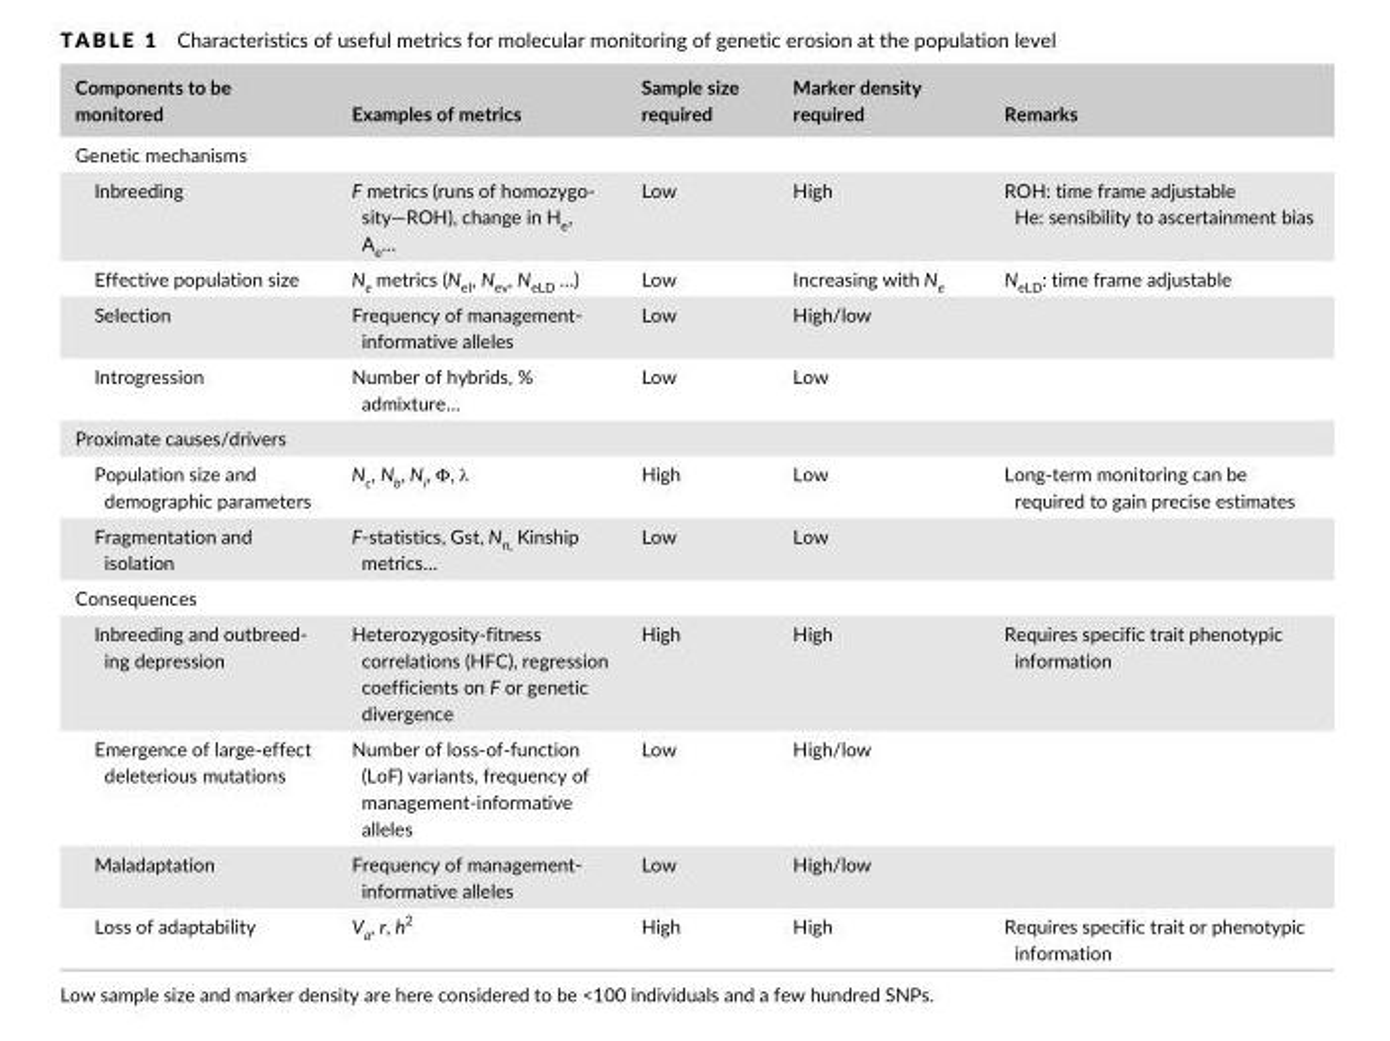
<table><thead><tr><td>Components to be monitored</td><td>Examples of metrics</td><td>Sample size required</td><td>Marker density required</td><td>Remarks</td></tr></thead><tbody><tr><td colspan="5">Genetic mechanisms</td></tr><tr><td>Inbreeding</td><td>F metrics (runs of homozygo- sity—ROH), change in He, Ae…</td><td>Low</td><td>High</td><td>ROH: time frame adjustable He: sensibility to ascertainment bias</td></tr><tr><td>Effective population size</td><td>N<sub>e</sub> metrics (N<sub>eI</sub>, N<sub>ev</sub>, N<sub>eLD</sub> …)</td><td>Low</td><td>Increasing with N<sub>e</sub></td><td>N<sub>eLD</sub>: time frame adjustable</td></tr><tr><td>Selection</td><td>Frequency of management- informative alleles</td><td>Low</td><td>High/low</td><td></td></tr><tr><td>Introgression</td><td>Number of hybrids, % admixture…</td><td>Low</td><td>Low</td><td></td></tr><tr><td colspan="5">Proximate causes/drivers</td></tr><tr><td>Population size and demographic parameters</td><td>N<sub>c</sub>, N<sub>b</sub>, N<sub>i</sub>, Φ, λ</td><td>High</td><td>Low</td><td>Long- term monitoring can be required to gain precise estimates</td></tr><tr><td>Fragmentation and isolation</td><td>F- statistics, Gst, N<sub>n,</sub> Kinship metrics…</td><td>Low</td><td>Low</td><td></td></tr><tr><td colspan="5">Consequences</td></tr><tr><td>Inbreeding and outbreed- ing depression</td><td>Heterozygosity- fitness correlations (HFC), regression coefficients on F or genetic divergence</td><td>High</td><td>High</td><td>Requires specific trait phenotypic information</td></tr><tr><td>Emergence of large- effect deleterious mutations</td><td>Number of loss- of- function (LoF) variants, frequency of management- informative alleles</td><td>Low</td><td>High/low</td><td></td></tr><tr><td>Maladaptation</td><td>Frequency of management- informative alleles</td><td>Low</td><td>High/low</td><td></td></tr><tr><td>Loss of adaptability</td><td>V<sub>a</sub>, r, h<sup>2</sup></td><td>High</td><td>High</td><td>Requires specific trait or phenotypic information</td></tr></tbody></table>